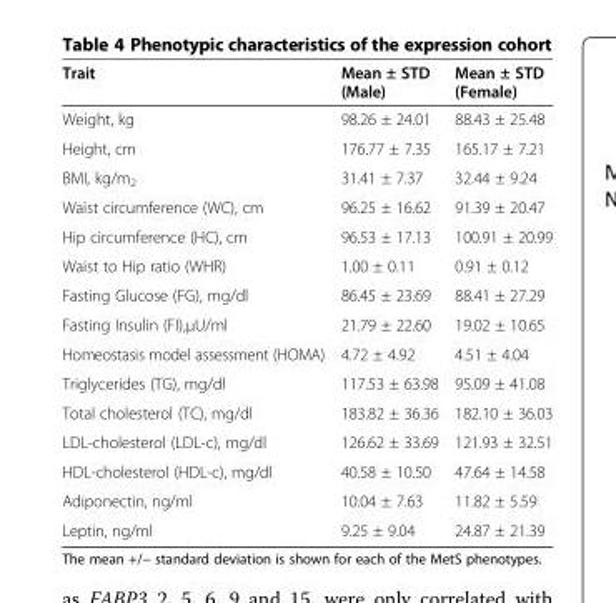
<table><thead><tr><td>Trait</td><td>Mean ± STD (Male)</td><td>Mean ± STD (Female)</td></tr></thead><tbody><tr><td>Weight, kg</td><td>98.26 ± 24.01</td><td>88.43 ± 25.48</td></tr><tr><td>Height, cm</td><td>176.77 ± 7.35</td><td>165.17 ± 7.21</td></tr><tr><td>BMI, kg/m<sub>2</sub></td><td>31.41 ± 7.37</td><td>32.44 ± 9.24</td></tr><tr><td>Waist circumference (WC), cm</td><td>96.25 ± 16.62</td><td>91.39 ± 20.47</td></tr><tr><td>Hip circumference (HC), cm</td><td>96.53 ± 17.13</td><td>100.91 ± 20.99</td></tr><tr><td>Waist to Hip ratio (WHR)</td><td>1.00 ± 0.11</td><td>0.91 ± 0.12</td></tr><tr><td>Fasting Glucose (FG), mg/dl</td><td>86.45 ± 23.69</td><td>88.41 ± 27.29</td></tr><tr><td>Fasting Insulin (FI),μU/ml</td><td>21.79 ± 22.60</td><td>19.02 ± 10.65</td></tr><tr><td>Homeostasis model assessment (HOMA)</td><td>4.72 ± 4.92</td><td>4.51 ± 4.04</td></tr><tr><td>Triglycerides (TG), mg/dl</td><td>117.53 ± 63.98</td><td>95.09 ± 41.08</td></tr><tr><td>Total cholesterol (TC), mg/dl</td><td>183.82 ± 36.36</td><td>182.10 ± 36.03</td></tr><tr><td>LDL-cholesterol (LDL-c), mg/dl</td><td>126.62 ± 33.69</td><td>121.93 ± 32.51</td></tr><tr><td>HDL-cholesterol (HDL-c), mg/dl</td><td>40.58 ± 10.50</td><td>47.64 ± 14.58</td></tr><tr><td>Adiponectin, ng/ml</td><td>10.04 ± 7.63</td><td>11.82 ± 5.59</td></tr><tr><td>Leptin, ng/ml</td><td>9.25 ± 9.04</td><td>24.87 ± 21.39</td></tr></tbody></table>